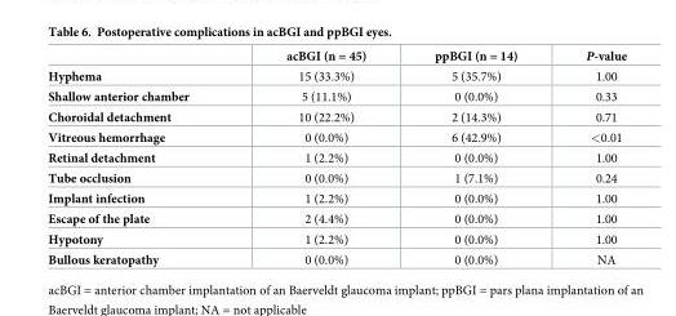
<table><thead><tr><td></td><td>acBGI (n = 45)</td><td>ppBGI (n = 14)</td><td>P-value</td></tr></thead><tbody><tr><td>Hyphema</td><td>15 (33.3%)</td><td>5 (35.7%)</td><td>1.00</td></tr><tr><td>Shallow anterior chamber</td><td>5 (11.1%)</td><td>0 (0.0%)</td><td>0.33</td></tr><tr><td>Choroidal detachment</td><td>10 (22.2%)</td><td>2 (14.3%)</td><td>0.71</td></tr><tr><td>Vitreous hemorrhage</td><td>0 (0.0%)</td><td>6 (42.9%)</td><td>&lt;0.01</td></tr><tr><td>Retinal detachment</td><td>1 (2.2%)</td><td>0 (0.0%)</td><td>1.00</td></tr><tr><td>Tube occlusion</td><td>0 (0.0%)</td><td>1 (7.1%)</td><td>0.24</td></tr><tr><td>Implant infection</td><td>1 (2.2%)</td><td>0 (0.0%)</td><td>1.00</td></tr><tr><td>Escape of the plate</td><td>2 (4.4%)</td><td>0 (0.0%)</td><td>1.00</td></tr><tr><td>Hypotony</td><td>1 (2.2%)</td><td>0 (0.0%)</td><td>1.00</td></tr><tr><td>Bullous keratopathy</td><td>0 (0.0%)</td><td>0 (0.0%)</td><td>NA</td></tr></tbody></table>